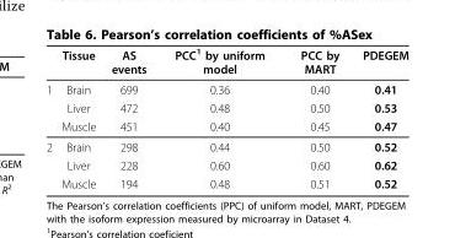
<table><thead><tr><td></td><td>Tissue</td><td>AS events</td><td>PCC<sup>1</sup> by uniform model</td><td>PCC by MART</td><td>PDEGEM</td></tr></thead><tbody><tr><td rowspan="3">1</td><td>Brain</td><td>699</td><td>0.36</td><td>0.40</td><td>0.41</td></tr><tr><td>Liver</td><td>472</td><td>0.48</td><td>0.50</td><td>0.53</td></tr><tr><td>Muscle</td><td>451</td><td>0.40</td><td>0.45</td><td>0.47</td></tr><tr><td rowspan="3">2</td><td>Brain</td><td>298</td><td>0.44</td><td>0.50</td><td>0.52</td></tr><tr><td>Liver</td><td>228</td><td>0.60</td><td>0.60</td><td>0.62</td></tr><tr><td>Muscle</td><td>194</td><td>0.48</td><td>0.51</td><td>0.52</td></tr></tbody></table>